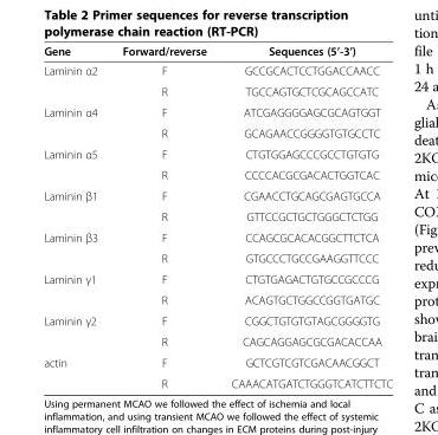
<table><thead><tr><td>Gene</td><td>Forward/reverse</td><td>Sequences (5’-3’)</td></tr></thead><tbody><tr><td rowspan="2">Laminin α2</td><td>F</td><td>GCCGCACTCCTGGACCAACC</td></tr><tr><td>R</td><td>TGCCAGTGCTCGCAGCCATC</td></tr><tr><td rowspan="2">Laminin α4</td><td>F</td><td>ATCGAGGGGAGCGCAGTGGT</td></tr><tr><td>R</td><td>GCAGAACCGGGGTGTGCCTC</td></tr><tr><td rowspan="2">Laminin α5</td><td>F</td><td>CTGTGGAGCCCGCCTGTGTG</td></tr><tr><td>R</td><td>CCCCACGCGACACTGGTCAC</td></tr><tr><td rowspan="2">Laminin β1</td><td>F</td><td>CGAACCTGCAGCGAGTGCCA</td></tr><tr><td>R</td><td>GTTCCGCTGCTGGGCTCTGG</td></tr><tr><td rowspan="2">Laminin β3</td><td>F</td><td>CCAGCGCACACGGCTTCTCA</td></tr><tr><td>R</td><td>GTGCCCTGCCGAAGGTTCCC</td></tr><tr><td rowspan="2">Laminin γ1</td><td>F</td><td>CTGTGAGACTGTGCCGCCCG</td></tr><tr><td>R</td><td>ACAGTGCTGGCCGGTGATGC</td></tr><tr><td rowspan="2">Laminin γ2</td><td>F</td><td>CGGCTGTGTGTAGCGGGGTG</td></tr><tr><td>R</td><td>CAGCAGGAGCGCGACACCAA</td></tr><tr><td rowspan="2">actin</td><td>F</td><td>GCTCGTCGTCGACAACGGCT</td></tr><tr><td>R</td><td>CAAACATGATCTGGGTCATCTTCTC</td></tr></tbody></table>